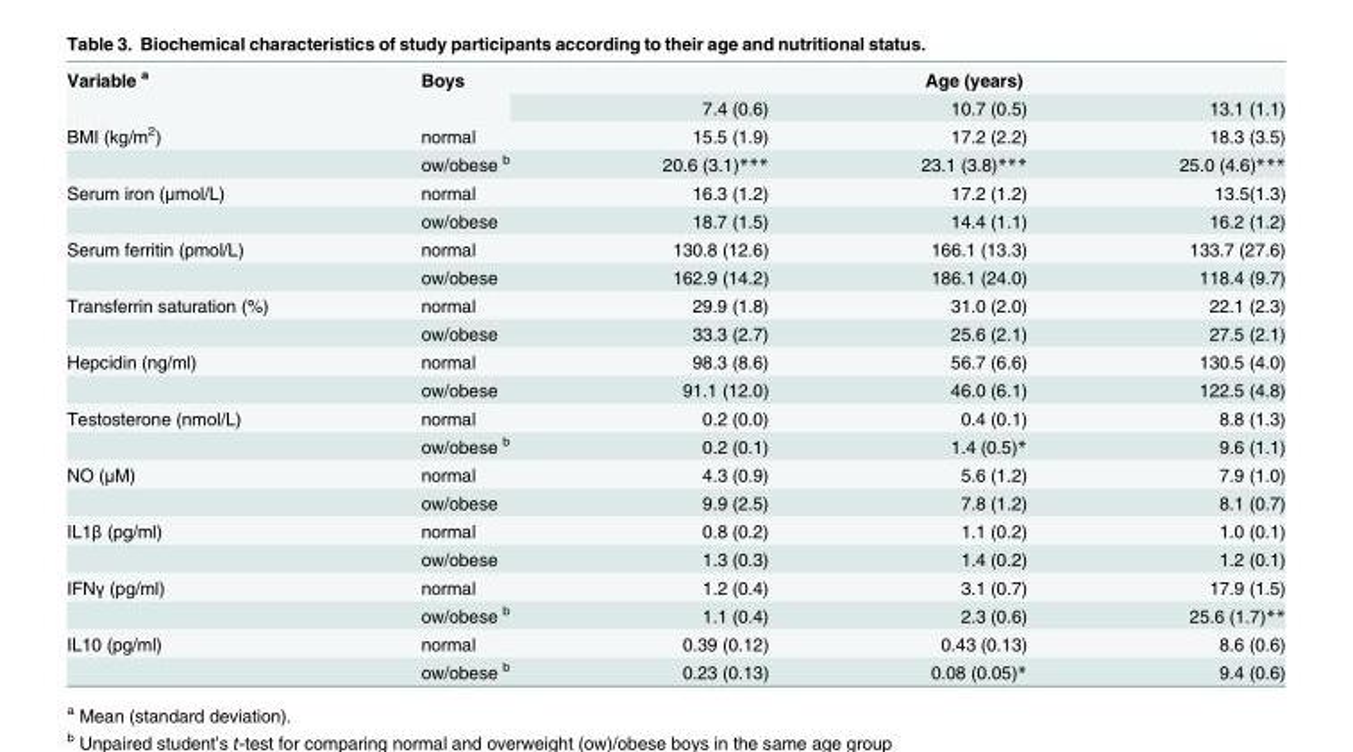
<table><tbody><tr><td rowspan="2">Variable <sup>a</sup></td><td rowspan="2">Boys</td><td colspan="3">Age (years)</td></tr><tr><td>7.4 (0.6)</td><td>10.7 (0.5)</td><td>13.1 (1.1)</td></tr><tr><td rowspan="2">BMI (kg/m<sup>2</sup>)</td><td>normal</td><td>15.5 (1.9)</td><td>17.2 (2.2)</td><td>18.3 (3.5)</td></tr><tr><td>ow/obese <sup>b</sup></td><td>20.6 (3.1)***</td><td>23.1 (3.8)***</td><td>25.0 (4.6)***</td></tr><tr><td rowspan="2">Serum iron (μmol/L)</td><td>normal</td><td>16.3 (1.2)</td><td>17.2 (1.2)</td><td>13.5(1.3)</td></tr><tr><td>ow/obese</td><td>18.7 (1.5)</td><td>14.4 (1.1)</td><td>16.2 (1.2)</td></tr><tr><td rowspan="2">Serum ferritin (pmol/L)</td><td>normal</td><td>130.8 (12.6)</td><td>166.1 (13.3)</td><td>133.7 (27.6)</td></tr><tr><td>ow/obese</td><td>162.9 (14.2)</td><td>186.1 (24.0)</td><td>118.4 (9.7)</td></tr><tr><td rowspan="2">Transferrin saturation (%)</td><td>normal</td><td>29.9 (1.8)</td><td>31.0 (2.0)</td><td>22.1 (2.3)</td></tr><tr><td>ow/obese</td><td>33.3 (2.7)</td><td>25.6 (2.1)</td><td>27.5 (2.1)</td></tr><tr><td rowspan="2">Hepcidin (ng/ml)</td><td>normal</td><td>98.3 (8.6)</td><td>56.7 (6.6)</td><td>130.5 (4.0)</td></tr><tr><td>ow/obese</td><td>91.1 (12.0)</td><td>46.0 (6.1)</td><td>122.5 (4.8)</td></tr><tr><td rowspan="2">Testosterone (nmol/L)</td><td>normal</td><td>0.2 (0.0)</td><td>0.4 (0.1)</td><td>8.8 (1.3)</td></tr><tr><td>ow/obese <sup>b</sup></td><td>0.2 (0.1)</td><td>1.4 (0.5)*</td><td>9.6 (1.1)</td></tr><tr><td rowspan="2">NO (μM)</td><td>normal</td><td>4.3 (0.9)</td><td>5.6 (1.2)</td><td>7.9 (1.0)</td></tr><tr><td>ow/obese</td><td>9.9 (2.5)</td><td>7.8 (1.2)</td><td>8.1 (0.7)</td></tr><tr><td rowspan="2">IL1β (pg/ml)</td><td>normal</td><td>0.8 (0.2)</td><td>1.1 (0.2)</td><td>1.0 (0.1)</td></tr><tr><td>ow/obese</td><td>1.3 (0.3)</td><td>1.4 (0.2)</td><td>1.2 (0.1)</td></tr><tr><td rowspan="2">IFNγ (pg/ml)</td><td>normal</td><td>1.2 (0.4)</td><td>3.1 (0.7)</td><td>17.9 (1.5)</td></tr><tr><td>ow/obese <sup>b</sup></td><td>1.1 (0.4)</td><td>2.3 (0.6)</td><td>25.6 (1.7)**</td></tr><tr><td rowspan="2">IL10 (pg/ml)</td><td>normal</td><td>0.39 (0.12)</td><td>0.43 (0.13)</td><td>8.6 (0.6)</td></tr><tr><td>ow/obese <sup>b</sup></td><td>0.23 (0.13)</td><td>0.08 (0.05)*</td><td>9.4 (0.6)</td></tr></tbody></table>